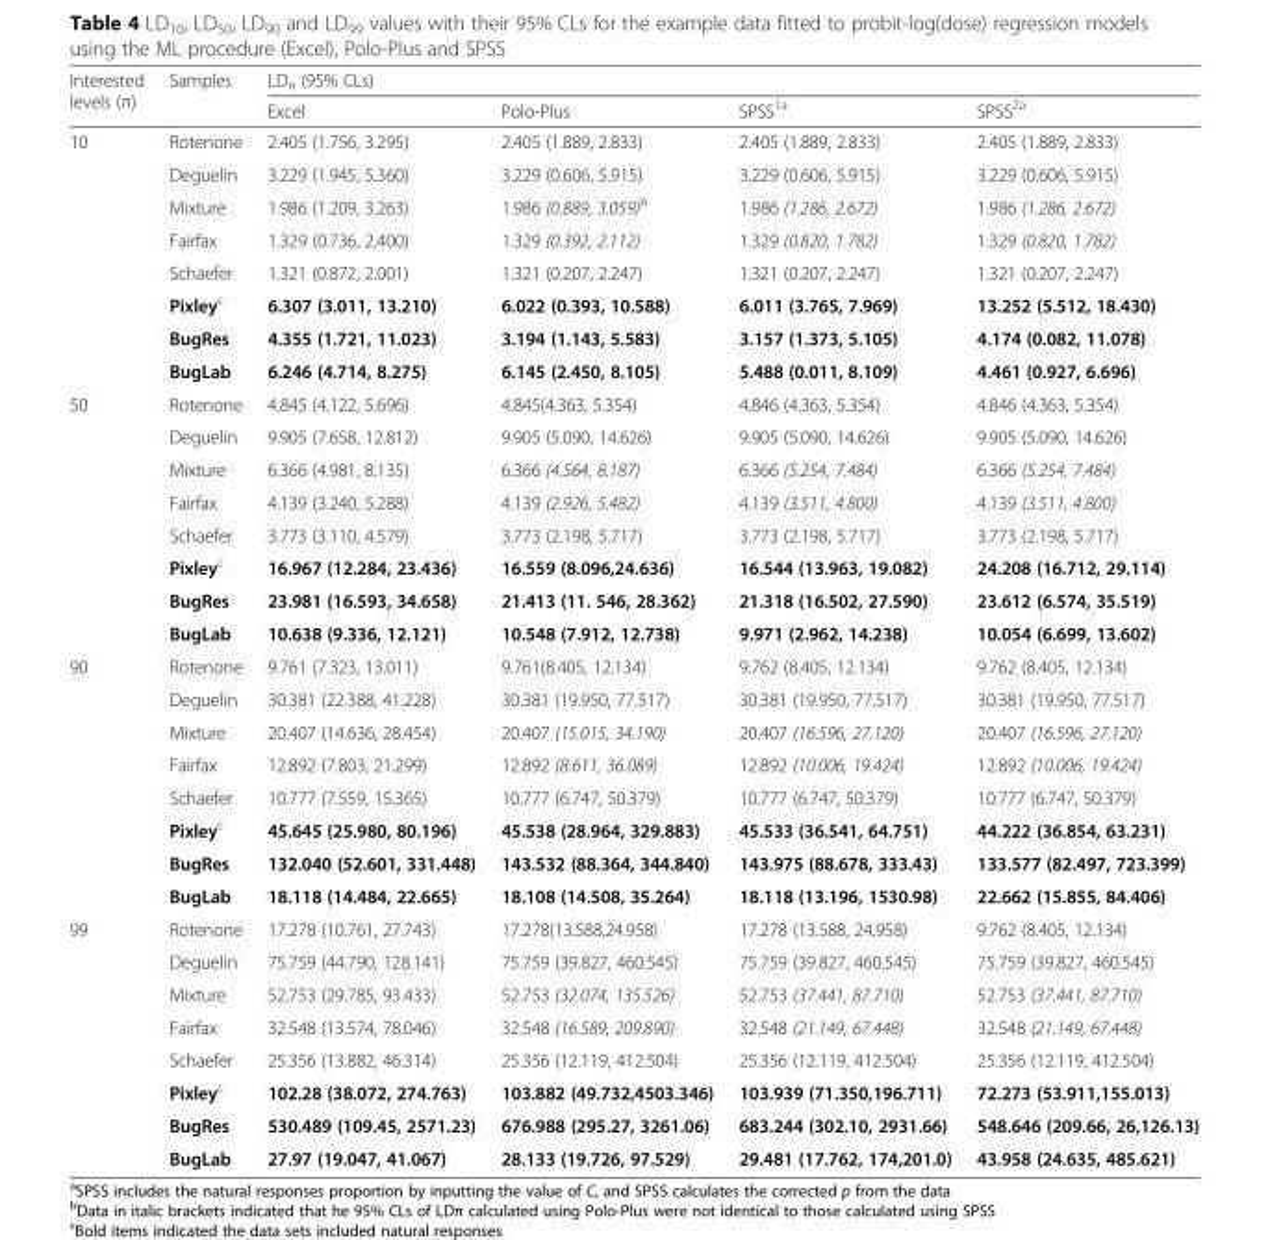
<table><thead><tr><td rowspan="2">Interested levels (π)</td><td rowspan="2">Samples</td><td colspan="4">LD<sub>π</sub> (95% CLs)</td></tr><tr><td>Excel</td><td>Polo-Plus</td><td>SPSS<sup>1a</sup></td><td>SPSS<sup>2a</sup></td></tr></thead><tbody><tr><td rowspan="8">10</td><td>Rotenone</td><td>2.405 (1.756, 3.295)</td><td>2.405 (1.889, 2.833)</td><td>2.405 (1.889, 2.833)</td><td>2.405 (1.889, 2.833)</td></tr><tr><td>Deguelin</td><td>3.229 (1.945, 5.360)</td><td>3.229 (0.606, 5.915)</td><td>3.229 (0.606, 5.915)</td><td>3.229 (0.606, 5.915)</td></tr><tr><td>Mixture</td><td>1.986 (1.209, 3.263)</td><td>1.986 (0.889, 3.059)<sup>b</sup></td><td>1.986 (1.286, 2.672)</td><td>1.986 (1.286, 2.672)</td></tr><tr><td>Fairfax</td><td>1.329 (0.736, 2.400)</td><td>1.329 (0.392, 2.112)</td><td>1.329 (0.820, 1.782)</td><td>1.329 (0.820, 1.782)</td></tr><tr><td>Schaefer</td><td>1.321 (0.872, 2.001)</td><td>1.321 (0.207, 2.247)</td><td>1.321 (0.207, 2.247)</td><td>1.321 (0.207, 2.247)</td></tr><tr><td>Pixley<sup>c</sup></td><td>6.307 (3.011, 13.210)</td><td>6.022 (0.393, 10.588)</td><td>6.011 (3.765, 7.969)</td><td>13.252 (5.512, 18.430)</td></tr><tr><td>BugRes</td><td>4.355 (1.721, 11.023)</td><td>3.194 (1.143, 5.583)</td><td>3.157 (1.373, 5.105)</td><td>4.174 (0.082, 11.078)</td></tr><tr><td>BugLab</td><td>6.246 (4.714, 8.275)</td><td>6.145 (2.450, 8.105)</td><td>5.488 (0.011, 8.109)</td><td>4.461 (0.927, 6.696)</td></tr><tr><td rowspan="8">50</td><td>Rotenone</td><td>4.845 (4.122, 5.696)</td><td>4.845(4.363, 5.354)</td><td>4.846 (4.363, 5.354)</td><td>4.846 (4.363, 5.354)</td></tr><tr><td>Deguelin</td><td>9.905 (7.658, 12.812)</td><td>9.905 (5.090, 14.626)</td><td>9.905 (5.090, 14.626)</td><td>9.905 (5.090, 14.626)</td></tr><tr><td>Mixture</td><td>6.366 (4.981, 8.135)</td><td>6.366 (4.564, 8.187)</td><td>6.366 (5.254, 7.484)</td><td>6.366 (5.254, 7.484)</td></tr><tr><td>Fairfax</td><td>4.139 (3.240, 5.288)</td><td>4.139 (2.926, 5.482)</td><td>4.139 (3.511, 4.800)</td><td>4.139 (3.511, 4.800)</td></tr><tr><td>Schaefer</td><td>3.773 (3.110, 4.579)</td><td>3.773 (2.198, 5.717)</td><td>3.773 (2.198, 5.717)</td><td>3.773 (2.198, 5.717)</td></tr><tr><td>Pixley<sup>c</sup></td><td>16.967 (12.284, 23.436)</td><td>16.559 (8.096,24.636)</td><td>16.544 (13.963, 19.082)</td><td>24.208 (16.712, 29.114)</td></tr><tr><td>BugRes</td><td>23.981 (16.593, 34.658)</td><td>21.413 (11. 546, 28.362)</td><td>21.318 (16.502, 27.590)</td><td>23.612 (6.574, 35.519)</td></tr><tr><td>BugLab</td><td>10.638 (9.336, 12.121)</td><td>10.548 (7.912, 12.738)</td><td>9.971 (2.962, 14.238)</td><td>10.054 (6.699, 13.602)</td></tr><tr><td rowspan="8">90</td><td>Rotenone</td><td>9.761 (7.323, 13.011)</td><td>9.761(8.405, 12.134)</td><td>9.762 (8.405, 12.134)</td><td>9.762 (8.405, 12.134)</td></tr><tr><td>Deguelin</td><td>30.381 (22.388, 41.228)</td><td>30.381 (19.950, 77.517)</td><td>30.381 (19.950, 77.517)</td><td>30.381 (19.950, 77.517)</td></tr><tr><td>Mixture</td><td>20.407 (14.636, 28.454)</td><td>20.407 (15.015, 34.190)</td><td>20.407 (16.596, 27.120)</td><td>20.407 (16.596, 27.120)</td></tr><tr><td>Fairfax</td><td>12.892 (7.803, 21.299)</td><td>12.892 (8.611, 36.089)</td><td>12.892 (10.006, 19.424)</td><td>12.892 (10.006, 19.424)</td></tr><tr><td>Schaefer</td><td>10.777 (7.559, 15.365)</td><td>10.777 (6.747, 50.379)</td><td>10.777 (6.747, 50.379)</td><td>10.777 (6.747, 50.379)</td></tr><tr><td>Pixley<sup>c</sup></td><td>45.645 (25.980, 80.196)</td><td>45.538 (28.964, 329.883)</td><td>45.533 (36.541, 64.751)</td><td>44.222 (36.854, 63.231)</td></tr><tr><td>BugRes</td><td>132.040 (52.601, 331.448)</td><td>143.532 (88.364, 344.840)</td><td>143.975 (88.678, 333.43)</td><td>133.577 (82.497, 723.399)</td></tr><tr><td>BugLab</td><td>18.118 (14.484, 22.665)</td><td>18.108 (14.508, 35.264)</td><td>18.118 (13.196, 1530.98)</td><td>22.662 (15.855, 84.406)</td></tr><tr><td rowspan="8">99</td><td>Rotenone</td><td>17.278 (10.761, 27.743)</td><td>17.278(13.588,24.958)</td><td>17.278 (13.588, 24.958)</td><td>9.762 (8.405, 12.134)</td></tr><tr><td>Deguelin</td><td>75.759 (44.790, 128.141)</td><td>75.759 (39.827, 460.545)</td><td>75.759 (39.827, 460.545)</td><td>75.759 (39.827, 460.545)</td></tr><tr><td>Mixture</td><td>52.753 (29.785, 93.433)</td><td>52.753 (32.074, 135.526)</td><td>52.753 (37.441, 87.710)</td><td>52.753 (37.441, 87.710)</td></tr><tr><td>Fairfax</td><td>32.548 (13.574, 78.046)</td><td>32.548 (16.589, 209.890)</td><td>32.548 (21.149, 67.448)</td><td>32.548 (21.149, 67.448)</td></tr><tr><td>Schaefer</td><td>25.356 (13.882, 46.314)</td><td>25.356 (12.119, 412.504)</td><td>25.356 (12.119, 412.504)</td><td>25.356 (12.119, 412.504)</td></tr><tr><td>Pixley<sup>c</sup></td><td>102.28 (38.072, 274.763)</td><td>103.882 (49.732,4503.346)</td><td>103.939 (71.350,196.711)</td><td>72.273 (53.911,155.013)</td></tr><tr><td>BugRes</td><td>530.489 (109.45, 2571.23)</td><td>676.988 (295.27, 3261.06)</td><td>683.244 (302.10, 2931.66)</td><td>548.646 (209.66, 26,126.13)</td></tr><tr><td>BugLab</td><td>27.97 (19.047, 41.067)</td><td>28.133 (19.726, 97.529)</td><td>29.481 (17.762, 174,201.0)</td><td>43.958 (24.635, 485.621)</td></tr></tbody></table>